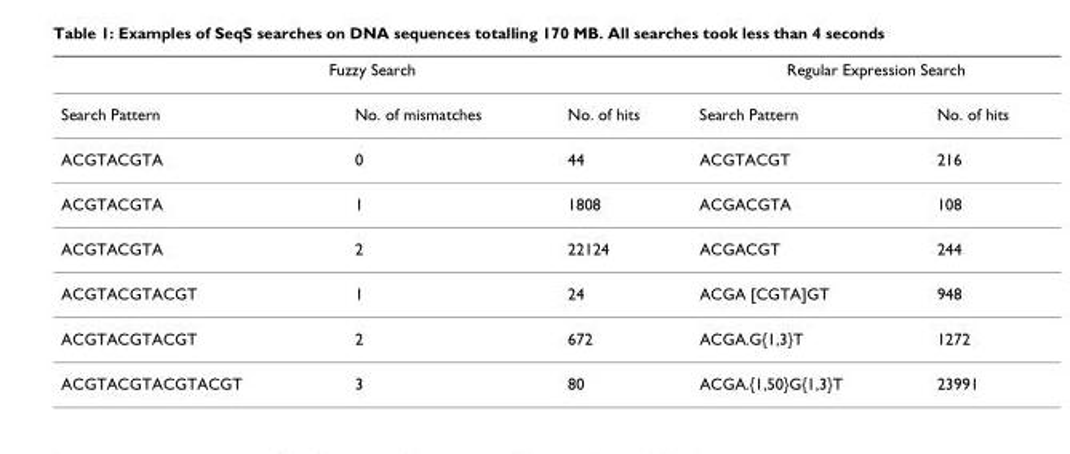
<table><thead><tr><td colspan="3">Fuzzy Search</td><td colspan="2">Regular Expression Search</td></tr><tr><td>Search Pattern</td><td>No. of mismatches</td><td>No. of hits</td><td>Search Pattern</td><td>No. of hits</td></tr></thead><tbody><tr><td>ACGTACGTA</td><td>0</td><td>44</td><td>ACGTACGT</td><td>216</td></tr><tr><td>ACGTACGTA</td><td>1</td><td>1808</td><td>ACGACGTA</td><td>108</td></tr><tr><td>ACGTACGTA</td><td>2</td><td>22124</td><td>ACGACGT</td><td>244</td></tr><tr><td>ACGTACGTACGT</td><td>1</td><td>24</td><td>ACGA [CGTA]GT</td><td>948</td></tr><tr><td>ACGTACGTACGT</td><td>2</td><td>672</td><td>ACGA.G{1,3}T</td><td>1272</td></tr><tr><td>ACGTACGTACGTACGT</td><td>3</td><td>80</td><td>ACGA.{1,50}G{1,3}T</td><td>23991</td></tr></tbody></table>